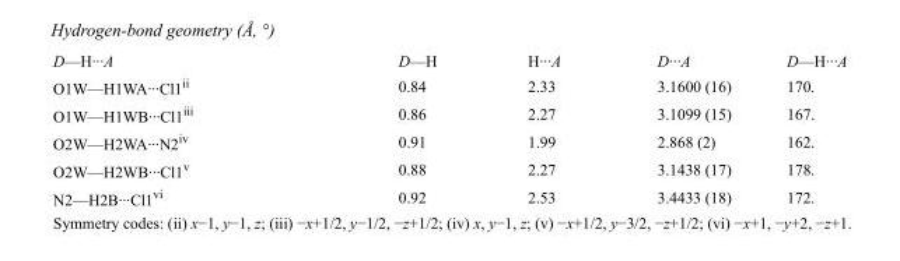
<table><tbody><tr><td>D—H···A</td><td>D—H</td><td>H···A</td><td>D···A</td><td>D—H···A</td></tr><tr><td>O1W—H1WA···Cl1<sup>ii</sup></td><td>0.84</td><td>2.33</td><td>3.1600 (16)</td><td>170.</td></tr><tr><td>O1W—H1WB···Cl1<sup>iii</sup></td><td>0.86</td><td>2.27</td><td>3.1099 (15)</td><td>167.</td></tr><tr><td>O2W—H2WA···N2<sup>iv</sup></td><td>0.91</td><td>1.99</td><td>2.868 (2)</td><td>162.</td></tr><tr><td>O2W—H2WB···Cl1<sup>v</sup></td><td>0.88</td><td>2.27</td><td>3.1438 (17)</td><td>178.</td></tr><tr><td>N2—H2B···Cl1<sup>vi</sup></td><td>0.92</td><td>2.53</td><td>3.4433 (18)</td><td>172.</td></tr></tbody></table>